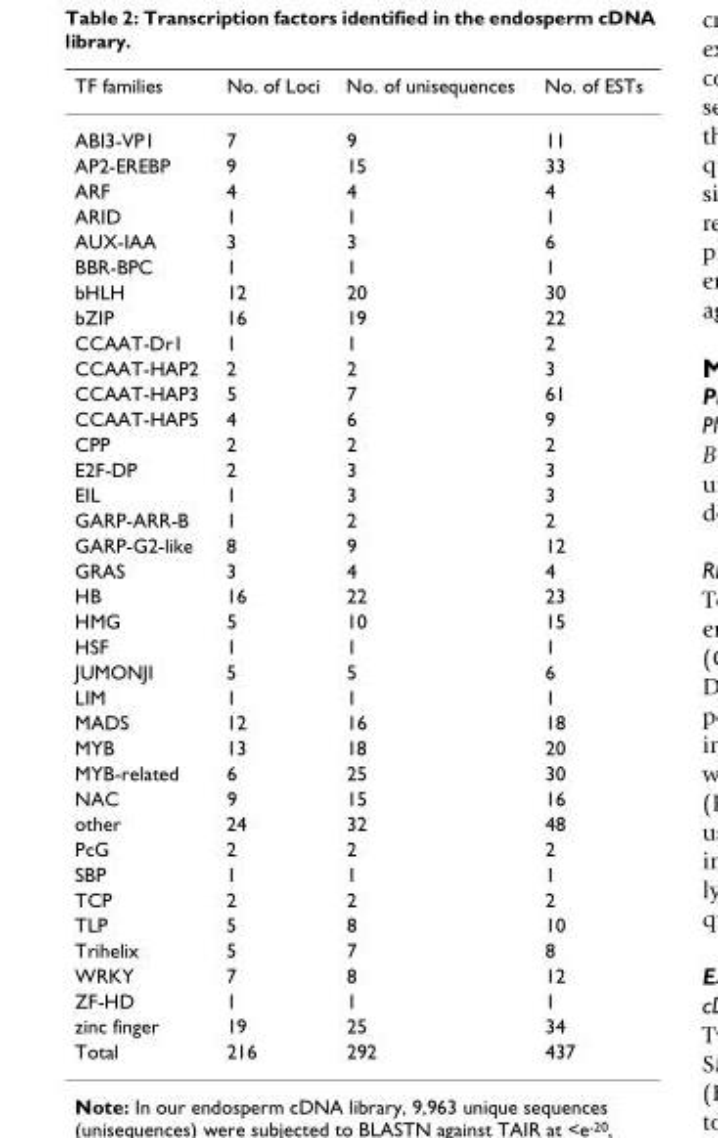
<table><thead><tr><td>TF families</td><td>No. of Loci</td><td>No. of unisequences</td><td>No. of ESTs</td></tr></thead><tbody><tr><td>ABI3-VP1</td><td>7</td><td>9</td><td>11</td></tr><tr><td>AP2-EREBP</td><td>9</td><td>15</td><td>33</td></tr><tr><td>ARF</td><td>4</td><td>4</td><td>4</td></tr><tr><td>ARID</td><td>1</td><td>1</td><td>1</td></tr><tr><td>AUX-IAA</td><td>3</td><td>3</td><td>6</td></tr><tr><td>BBR-BPC</td><td>1</td><td>1</td><td>1</td></tr><tr><td>bHLH</td><td>12</td><td>20</td><td>30</td></tr><tr><td>bZIP</td><td>16</td><td>19</td><td>22</td></tr><tr><td>CCAAT-Dr1</td><td>1</td><td>1</td><td>2</td></tr><tr><td>CCAAT-HAP2</td><td>2</td><td>2</td><td>3</td></tr><tr><td>CCAAT-HAP3</td><td>5</td><td>7</td><td>61</td></tr><tr><td>CCAAT-HAP5</td><td>4</td><td>6</td><td>9</td></tr><tr><td>CPP</td><td>2</td><td>2</td><td>2</td></tr><tr><td>E2F-DP</td><td>2</td><td>3</td><td>3</td></tr><tr><td>EIL</td><td>1</td><td>3</td><td>3</td></tr><tr><td>GARP-ARR-B</td><td>1</td><td>2</td><td>2</td></tr><tr><td>GARP-G2-like</td><td>8</td><td>9</td><td>12</td></tr><tr><td>GRAS</td><td>3</td><td>4</td><td>4</td></tr><tr><td>HB</td><td>16</td><td>22</td><td>23</td></tr><tr><td>HMG</td><td>5</td><td>10</td><td>15</td></tr><tr><td>HSF</td><td>1</td><td>1</td><td>1</td></tr><tr><td>JUMONJI</td><td>5</td><td>5</td><td>6</td></tr><tr><td>LIM</td><td>1</td><td>1</td><td>1</td></tr><tr><td>MADS</td><td>12</td><td>16</td><td>18</td></tr><tr><td>MYB</td><td>13</td><td>18</td><td>20</td></tr><tr><td>MYB-related</td><td>6</td><td>25</td><td>30</td></tr><tr><td>NAC</td><td>9</td><td>15</td><td>16</td></tr><tr><td>other</td><td>24</td><td>32</td><td>48</td></tr><tr><td>PcG</td><td>2</td><td>2</td><td>2</td></tr><tr><td>SBP</td><td>1</td><td>1</td><td>1</td></tr><tr><td>TCP</td><td>2</td><td>2</td><td>2</td></tr><tr><td>TLP</td><td>5</td><td>8</td><td>10</td></tr><tr><td>Trihelix</td><td>5</td><td>7</td><td>8</td></tr><tr><td>WRKY</td><td>7</td><td>8</td><td>12</td></tr><tr><td>ZF-HD</td><td>1</td><td>1</td><td>1</td></tr><tr><td>zinc finger</td><td>19</td><td>25</td><td>34</td></tr><tr><td>Total</td><td>216</td><td>292</td><td>437</td></tr></tbody></table>